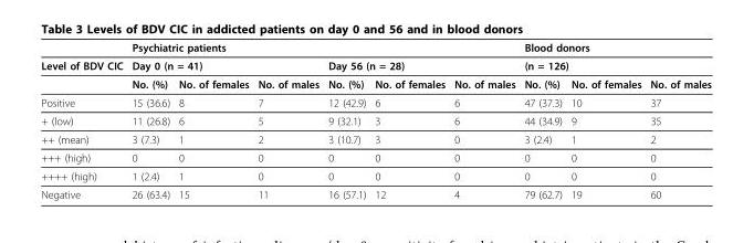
<table><thead><tr><td rowspan="3">Level of BDV CIC</td><td colspan="6">Psychiatric patients</td><td rowspan="2" colspan="3">Blood donors (n = 126)</td></tr><tr><td colspan="3">Day 0 (n = 41)</td><td colspan="3">Day 56 (n = 28)</td></tr><tr><td>No. (%)</td><td>No. of females</td><td>No. of males</td><td>No. (%)</td><td>No. of females</td><td>No. of males</td><td>No. (%)</td><td>No. of females</td><td>No. of males</td></tr></thead><tbody><tr><td>Positive</td><td>15 (36.6)</td><td>8</td><td>7</td><td>12 (42.9)</td><td>6</td><td>6</td><td>47 (37.3)</td><td>10</td><td>37</td></tr><tr><td>+ (low)</td><td>11 (26.8)</td><td>6</td><td>5</td><td>9 (32.1)</td><td>3</td><td>6</td><td>44 (34.9)</td><td>9</td><td>35</td></tr><tr><td>++ (mean)</td><td>3 (7.3)</td><td>1</td><td>2</td><td>3 (10.7)</td><td>3</td><td>0</td><td>3 (2.4)</td><td>1</td><td>2</td></tr><tr><td>+++ (high)</td><td>0</td><td>0</td><td>0</td><td>0</td><td>0</td><td>0</td><td>0</td><td>0</td><td>0</td></tr><tr><td>++++ (high)</td><td>1 (2.4)</td><td>1</td><td>0</td><td>0</td><td>0</td><td>0</td><td>0</td><td>0</td><td>0</td></tr><tr><td>Negative</td><td>26 (63.4)</td><td>15</td><td>11</td><td>16 (57.1)</td><td>12</td><td>4</td><td>79 (62.7)</td><td>19</td><td>60</td></tr></tbody></table>